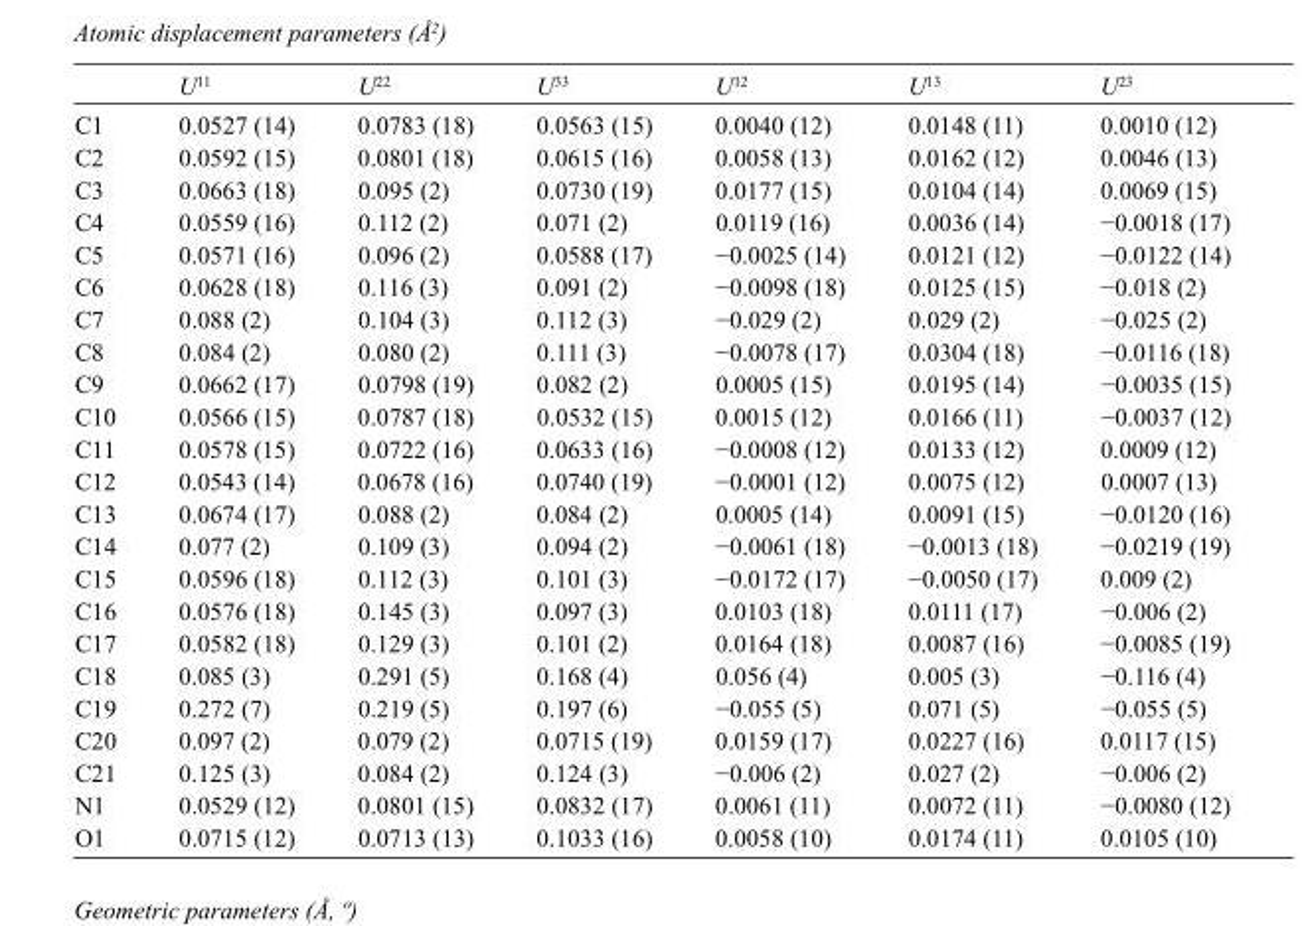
<table><thead><tr><td></td><td>U<sup>11</sup></td><td>U<sup>22</sup></td><td>U<sup>33</sup></td><td>U<sup>12</sup></td><td>U<sup>13</sup></td><td>U<sup>23</sup></td></tr></thead><tbody><tr><td>C1</td><td>0.0527 (14)</td><td>0.0783 (18)</td><td>0.0563 (15)</td><td>0.0040 (12)</td><td>0.0148 (11)</td><td>0.0010 (12)</td></tr><tr><td>C2</td><td>0.0592 (15)</td><td>0.0801 (18)</td><td>0.0615 (16)</td><td>0.0058 (13)</td><td>0.0162 (12)</td><td>0.0046 (13)</td></tr><tr><td>C3</td><td>0.0663 (18)</td><td>0.095 (2)</td><td>0.0730 (19)</td><td>0.0177 (15)</td><td>0.0104 (14)</td><td>0.0069 (15)</td></tr><tr><td>C4</td><td>0.0559 (16)</td><td>0.112 (2)</td><td>0.071 (2)</td><td>0.0119 (16)</td><td>0.0036 (14)</td><td>−0.0018 (17)</td></tr><tr><td>C5</td><td>0.0571 (16)</td><td>0.096 (2)</td><td>0.0588 (17)</td><td>−0.0025 (14)</td><td>0.0121 (12)</td><td>−0.0122 (14)</td></tr><tr><td>C6</td><td>0.0628 (18)</td><td>0.116 (3)</td><td>0.091 (2)</td><td>−0.0098 (18)</td><td>0.0125 (15)</td><td>−0.018 (2)</td></tr><tr><td>C7</td><td>0.088 (2)</td><td>0.104 (3)</td><td>0.112 (3)</td><td>−0.029 (2)</td><td>0.029 (2)</td><td>−0.025 (2)</td></tr><tr><td>C8</td><td>0.084 (2)</td><td>0.080 (2)</td><td>0.111 (3)</td><td>−0.0078 (17)</td><td>0.0304 (18)</td><td>−0.0116 (18)</td></tr><tr><td>C9</td><td>0.0662 (17)</td><td>0.0798 (19)</td><td>0.082 (2)</td><td>0.0005 (15)</td><td>0.0195 (14)</td><td>−0.0035 (15)</td></tr><tr><td>C10</td><td>0.0566 (15)</td><td>0.0787 (18)</td><td>0.0532 (15)</td><td>0.0015 (12)</td><td>0.0166 (11)</td><td>−0.0037 (12)</td></tr><tr><td>C11</td><td>0.0578 (15)</td><td>0.0722 (16)</td><td>0.0633 (16)</td><td>−0.0008 (12)</td><td>0.0133 (12)</td><td>0.0009 (12)</td></tr><tr><td>C12</td><td>0.0543 (14)</td><td>0.0678 (16)</td><td>0.0740 (19)</td><td>−0.0001 (12)</td><td>0.0075 (12)</td><td>0.0007 (13)</td></tr><tr><td>C13</td><td>0.0674 (17)</td><td>0.088 (2)</td><td>0.084 (2)</td><td>0.0005 (14)</td><td>0.0091 (15)</td><td>−0.0120 (16)</td></tr><tr><td>C14</td><td>0.077 (2)</td><td>0.109 (3)</td><td>0.094 (2)</td><td>−0.0061 (18)</td><td>−0.0013 (18)</td><td>−0.0219 (19)</td></tr><tr><td>C15</td><td>0.0596 (18)</td><td>0.112 (3)</td><td>0.101 (3)</td><td>−0.0172 (17)</td><td>−0.0050 (17)</td><td>0.009 (2)</td></tr><tr><td>C16</td><td>0.0576 (18)</td><td>0.145 (3)</td><td>0.097 (3)</td><td>0.0103 (18)</td><td>0.0111 (17)</td><td>−0.006 (2)</td></tr><tr><td>C17</td><td>0.0582 (18)</td><td>0.129 (3)</td><td>0.101 (2)</td><td>0.0164 (18)</td><td>0.0087 (16)</td><td>−0.0085 (19)</td></tr><tr><td>C18</td><td>0.085 (3)</td><td>0.291 (5)</td><td>0.168 (4)</td><td>0.056 (4)</td><td>0.005 (3)</td><td>−0.116 (4)</td></tr><tr><td>C19</td><td>0.272 (7)</td><td>0.219 (5)</td><td>0.197 (6)</td><td>−0.055 (5)</td><td>0.071 (5)</td><td>−0.055 (5)</td></tr><tr><td>C20</td><td>0.097 (2)</td><td>0.079 (2)</td><td>0.0715 (19)</td><td>0.0159 (17)</td><td>0.0227 (16)</td><td>0.0117 (15)</td></tr><tr><td>C21</td><td>0.125 (3)</td><td>0.084 (2)</td><td>0.124 (3)</td><td>−0.006 (2)</td><td>0.027 (2)</td><td>−0.006 (2)</td></tr><tr><td>N1</td><td>0.0529 (12)</td><td>0.0801 (15)</td><td>0.0832 (17)</td><td>0.0061 (11)</td><td>0.0072 (11)</td><td>−0.0080 (12)</td></tr><tr><td>O1</td><td>0.0715 (12)</td><td>0.0713 (13)</td><td>0.1033 (16)</td><td>0.0058 (10)</td><td>0.0174 (11)</td><td>0.0105 (10)</td></tr></tbody></table>